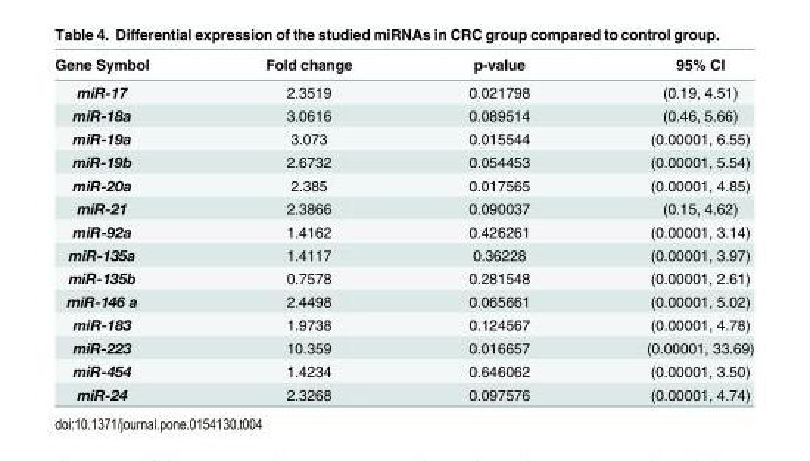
<table><thead><tr><td>Gene Symbol</td><td>Fold change</td><td>p-value</td><td>95% CI</td></tr></thead><tbody><tr><td>miR-17</td><td>2.3519</td><td>0.021798</td><td>(0.19, 4.51)</td></tr><tr><td>miR-18a</td><td>3.0616</td><td>0.089514</td><td>(0.46, 5.66)</td></tr><tr><td>miR-19a</td><td>3.073</td><td>0.015544</td><td>(0.00001, 6.55)</td></tr><tr><td>miR-19b</td><td>2.6732</td><td>0.054453</td><td>(0.00001, 5.54)</td></tr><tr><td>miR-20a</td><td>2.385</td><td>0.017565</td><td>(0.00001, 4.85)</td></tr><tr><td>miR-21</td><td>2.3866</td><td>0.090037</td><td>(0.15, 4.62)</td></tr><tr><td>miR-92a</td><td>1.4162</td><td>0.426261</td><td>(0.00001, 3.14)</td></tr><tr><td>miR-135a</td><td>1.4117</td><td>0.36228</td><td>(0.00001, 3.97)</td></tr><tr><td>miR-135b</td><td>0.7578</td><td>0.281548</td><td>(0.00001, 2.61)</td></tr><tr><td>miR-146 a</td><td>2.4498</td><td>0.065661</td><td>(0.00001, 5.02)</td></tr><tr><td>miR-183</td><td>1.9738</td><td>0.124567</td><td>(0.00001, 4.78)</td></tr><tr><td>miR-223</td><td>10.359</td><td>0.016657</td><td>(0.00001, 33.69)</td></tr><tr><td>miR-454</td><td>1.4234</td><td>0.646062</td><td>(0.00001, 3.50)</td></tr><tr><td>miR-24</td><td>2.3268</td><td>0.097576</td><td>(0.00001, 4.74)</td></tr></tbody></table>